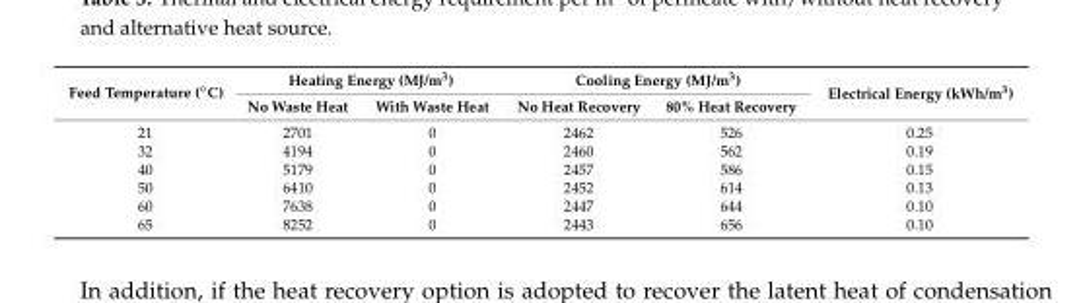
<table><thead><tr><td rowspan="2">Feed Temperature (◦C)</td><td colspan="2">Heating Energy (MJ/m<sup>3</sup>)</td><td colspan="2">Cooling Energy (MJ/m<sup>3</sup>)</td><td rowspan="2">Electrical Energy (kWh/m<sup>3</sup>)</td></tr><tr><td>No Waste Heat</td><td>With Waste Heat</td><td>No Heat Recovery</td><td>80% Heat Recovery</td></tr></thead><tbody><tr><td>21</td><td>2701</td><td>0</td><td>2462</td><td>526</td><td>0.25</td></tr><tr><td>32</td><td>4194</td><td>0</td><td>2460</td><td>562</td><td>0.19</td></tr><tr><td>40</td><td>5179</td><td>0</td><td>2457</td><td>586</td><td>0.15</td></tr><tr><td>50</td><td>6410</td><td>0</td><td>2452</td><td>614</td><td>0.13</td></tr><tr><td>60</td><td>7638</td><td>0</td><td>2447</td><td>644</td><td>0.10</td></tr><tr><td>65</td><td>8252</td><td>0</td><td>2443</td><td>656</td><td>0.10</td></tr></tbody></table>